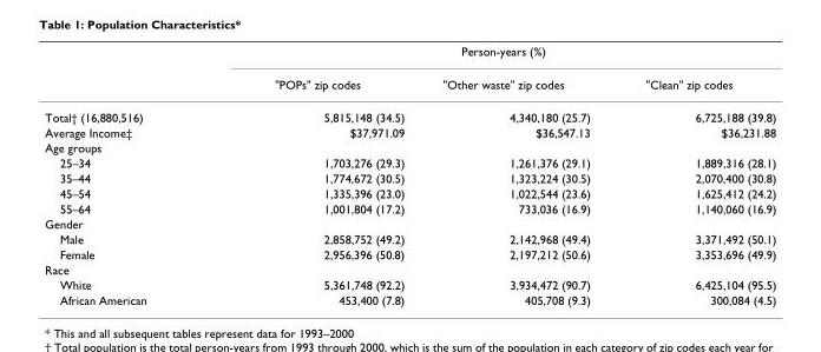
<table><thead><tr><td rowspan="2"></td><td colspan="3">Person-years (%)</td></tr><tr><td>&quot;POPs&quot; zip codes</td><td>&quot;Other waste&quot; zip codes</td><td>&quot;Clean&quot; zip codes</td></tr></thead><tbody><tr><td>Total† (16,880,516)</td><td>5,815,148 (34.5)</td><td>4,340,180 (25.7)</td><td>6,725,188 (39.8)</td></tr><tr><td>Average Income‡</td><td>$37,971.09</td><td>$36,547.13</td><td>$36,231.88</td></tr><tr><td colspan="4">Age groups</td></tr><tr><td>25–34</td><td>1,703,276 (29.3)</td><td>1,261,376 (29.1)</td><td>1,889,316 (28.1)</td></tr><tr><td>35–44</td><td>1,774,672 (30.5)</td><td>1,323,224 (30.5)</td><td>2,070,400 (30.8)</td></tr><tr><td>45–54</td><td>1,335,396 (23.0)</td><td>1,022,544 (23.6)</td><td>1,625,412 (24.2)</td></tr><tr><td>55–64</td><td>1,001,804 (17.2)</td><td>733,036 (16.9)</td><td>1,140,060 (16.9)</td></tr><tr><td colspan="4">Gender</td></tr><tr><td>Male</td><td>2,858,752 (49.2)</td><td>2,142,968 (49.4)</td><td>3,371,492 (50.1)</td></tr><tr><td>Female</td><td>2,956,396 (50.8)</td><td>2,197,212 (50.6)</td><td>3,353,696 (49.9)</td></tr><tr><td colspan="4">Race</td></tr><tr><td>White</td><td>5,361,748 (92.2)</td><td>3,934,472 (90.7)</td><td>6,425,104 (95.5)</td></tr><tr><td>African American</td><td>453,400 (7.8)</td><td>405,708 (9.3)</td><td>300,084 (4.5)</td></tr></tbody></table>